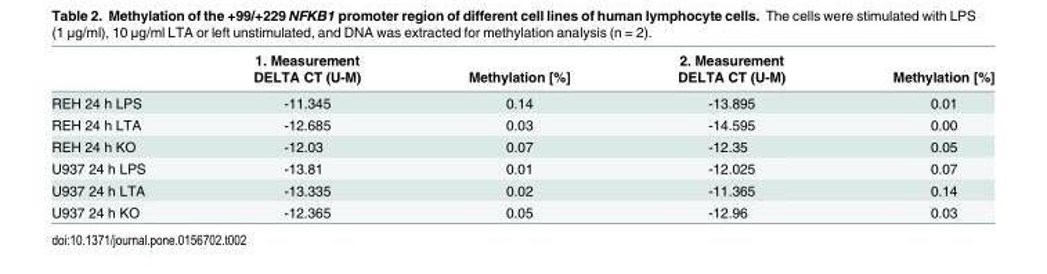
<table><thead><tr><td rowspan="2"></td><td rowspan="2">1. Measurement DELTA CT (U-M)</td><td rowspan="2">Methylation [%]</td><td rowspan="2">2. Measurement DELTA CT (U-M)</td><td rowspan="2">Methylation [%]</td></tr><tr></tr></thead><tbody><tr><td>REH 24 h LPS</td><td>-11.345</td><td>0.14</td><td>-13.895</td><td>0.01</td></tr><tr><td>REH 24 h LTA</td><td>-12.685</td><td>0.03</td><td>-14.595</td><td>0.00</td></tr><tr><td>REH 24 h KO</td><td>-12.03</td><td>0.07</td><td>-12.35</td><td>0.05</td></tr><tr><td>U937 24 h LPS</td><td>-13.81</td><td>0.01</td><td>-12.025</td><td>0.07</td></tr><tr><td>U937 24 h LTA</td><td>-13.335</td><td>0.02</td><td>-11.365</td><td>0.14</td></tr><tr><td>U937 24 h KO</td><td>-12.365</td><td>0.05</td><td>-12.96</td><td>0.03</td></tr></tbody></table>